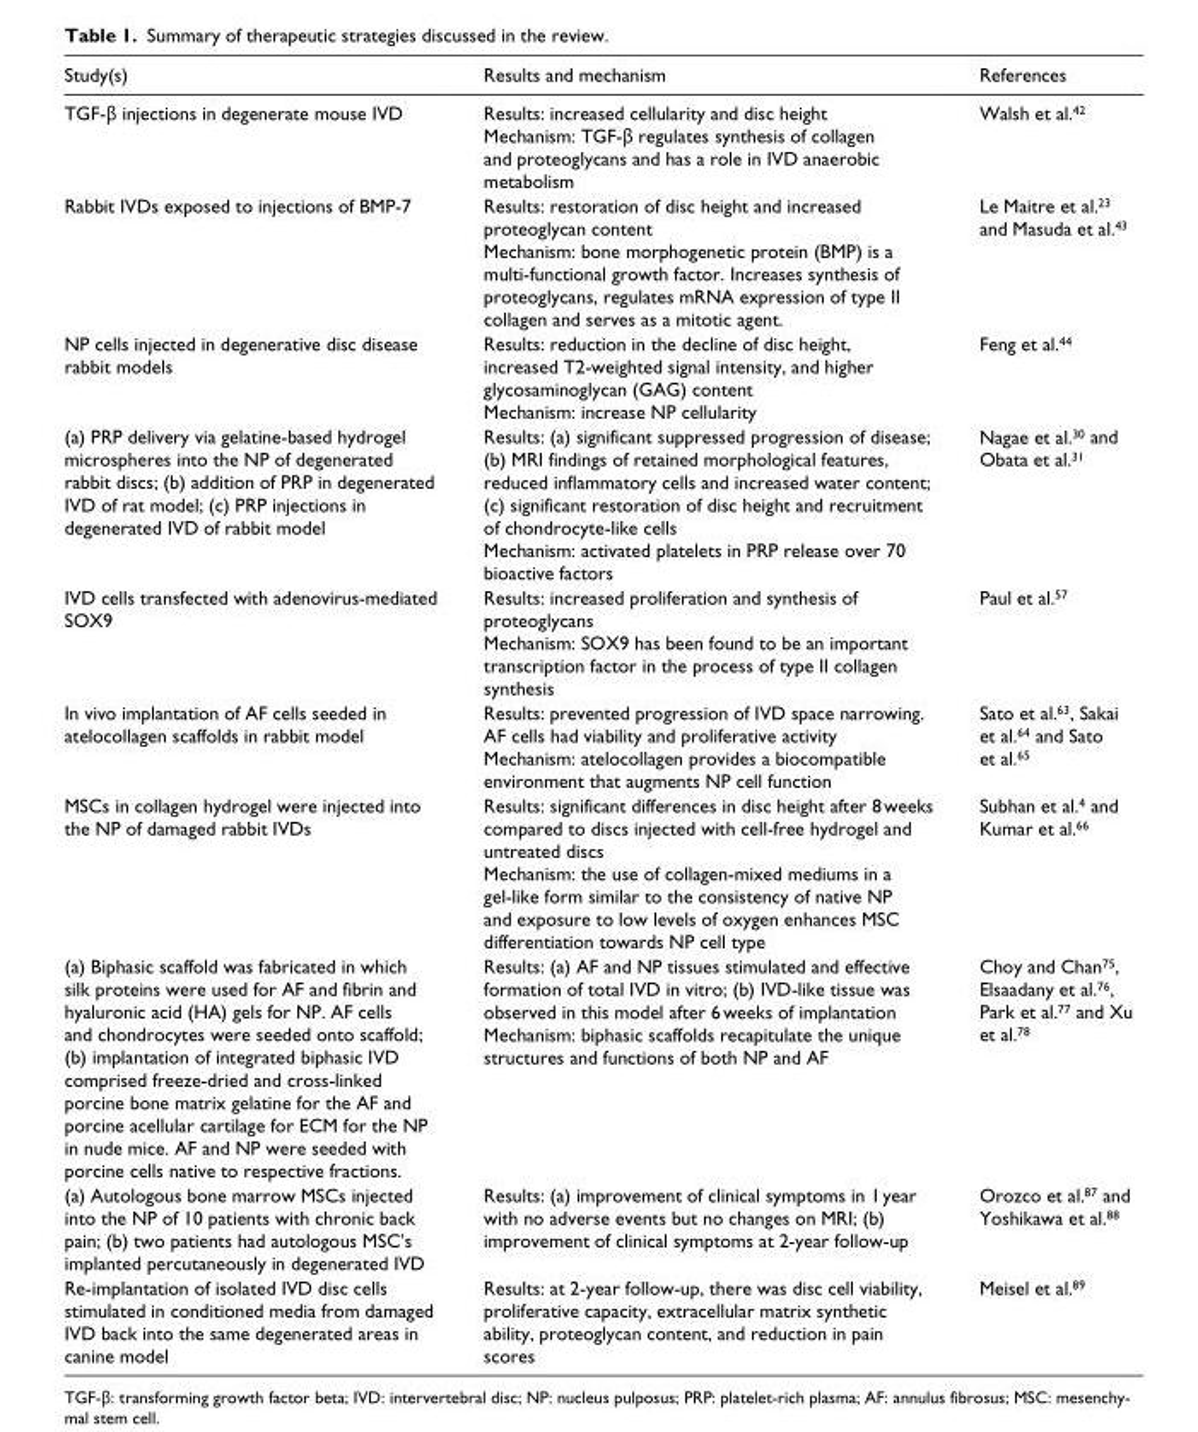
<table><thead><tr><td>Study(s)</td><td>Results and mechanism</td><td>References</td></tr></thead><tbody><tr><td>TGF-β injections in degenerate mouse IVD</td><td>Results: increased cellularity and disc height Mechanism: TGF-β regulates synthesis of collagen and proteoglycans and has a role in IVD anaerobic metabolism</td><td>Walsh et al.<sup>42</sup></td></tr><tr><td>Rabbit IVDs exposed to injections of BMP-7</td><td>Results: restoration of disc height and increased proteoglycan content Mechanism: bone morphogenetic protein (BMP) is a multi-functional growth factor. Increases synthesis of proteoglycans, regulates mRNA expression of type II collagen and serves as a mitotic agent.</td><td>Le Maitre et al.<sup>23</sup> and Masuda et al.<sup>43</sup></td></tr><tr><td>NP cells injected in degenerative disc disease rabbit models</td><td>Results: reduction in the decline of disc height, increased T2-weighted signal intensity, and higher glycosaminoglycan (GAG) content Mechanism: increase NP cellularity</td><td>Feng et al.<sup>44</sup></td></tr><tr><td>(a) PRP delivery via gelatine-based hydrogel microspheres into the NP of degenerated rabbit discs; (b) addition of PRP in degenerated IVD of rat model; (c) PRP injections in degenerated IVD of rabbit model</td><td>Results: (a) significant suppressed progression of disease; (b) MRI findings of retained morphological features, reduced inflammatory cells and increased water content; (c) significant restoration of disc height and recruitment of chondrocyte-like cells Mechanism: activated platelets in PRP release over 70 bioactive factors</td><td>Nagae et al.<sup>30</sup> and Obata et al.<sup>31</sup></td></tr><tr><td>IVD cells transfected with adenovirus-mediated SOX9</td><td>Results: increased proliferation and synthesis of proteoglycans Mechanism: SOX9 has been found to be an important transcription factor in the process of type II collagen synthesis</td><td>Paul et al.<sup>57</sup></td></tr><tr><td>In vivo implantation of AF cells seeded in atelocollagen scaffolds in rabbit model</td><td>Results: prevented progression of IVD space narrowing. AF cells had viability and proliferative activity Mechanism: atelocollagen provides a biocompatible environment that augments NP cell function</td><td>Sato et al.<sup>63</sup>, Sakai et al.<sup>64</sup> and Sato et al.<sup>65</sup></td></tr><tr><td>MSCs in collagen hydrogel were injected into the NP of damaged rabbit IVDs</td><td>Results: significant differences in disc height after 8 weeks compared to discs injected with cell-free hydrogel and untreated discs Mechanism: the use of collagen-mixed mediums in a gel-like form similar to the consistency of native NP and exposure to low levels of oxygen enhances MSC differentiation towards NP cell type</td><td>Subhan et al.<sup>4</sup> and Kumar et al.<sup>66</sup></td></tr><tr><td>(a) Biphasic scaffold was fabricated in which silk proteins were used for AF and fibrin and hyaluronic acid (HA) gels for NP. AF cells and chondrocytes were seeded onto scaffold; (b) implantation of integrated biphasic IVD comprised freeze-dried and cross-linked porcine bone matrix gelatine for the AF and porcine acellular cartilage for ECM for the NP in nude mice. AF and NP were seeded with porcine cells native to respective fractions.</td><td>Results: (a) AF and NP tissues stimulated and effective formation of total IVD in vitro; (b) IVD-like tissue was observed in this model after 6 weeks of implantation Mechanism: biphasic scaffolds recapitulate the unique structures and functions of both NP and AF</td><td>Choy and Chan<sup>75</sup>, Elsaadany et al.<sup>76</sup>, Park et al.<sup>77</sup> and Xu et al.<sup>78</sup></td></tr><tr><td>(a) Autologous bone marrow MSCs injected into the NP of 10 patients with chronic back pain; (b) two patients had autologous MSC’s implanted percutaneously in degenerated IVD</td><td>Results: (a) improvement of clinical symptoms in 1 year with no adverse events but no changes on MRI; (b) improvement of clinical symptoms at 2-year follow-up</td><td>Orozco et al.<sup>87</sup> and Yoshikawa et al.<sup>88</sup></td></tr><tr><td>Re-implantation of isolated IVD disc cells stimulated in conditioned media from damaged IVD back into the same degenerated areas in canine model</td><td>Results: at 2-year follow-up, there was disc cell viability, proliferative capacity, extracellular matrix synthetic ability, proteoglycan content, and reduction in pain scores</td><td>Meisel et al.<sup>89</sup></td></tr></tbody></table>